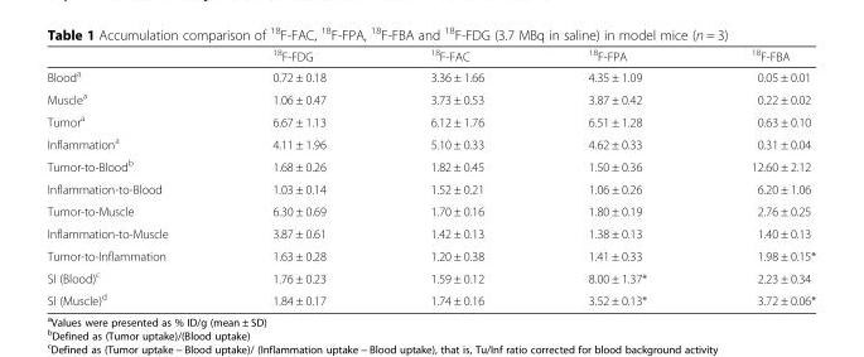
<table><thead><tr><td></td><td><sup>18</sup>F-FDG</td><td><sup>18</sup>F-FAC</td><td><sup>18</sup>F-FPA</td><td><sup>18</sup>F-FBA</td></tr></thead><tbody><tr><td>Blood<sup>a</sup></td><td>0.72 ± 0.18</td><td>3.36 ± 1.66</td><td>4.35 ± 1.09</td><td>0.05 ± 0.01</td></tr><tr><td>Muscle<sup>a</sup></td><td>1.06 ± 0.47</td><td>3.73 ± 0.53</td><td>3.87 ± 0.42</td><td>0.22 ± 0.02</td></tr><tr><td>Tumor<sup>a</sup></td><td>6.67 ± 1.13</td><td>6.12 ± 1.76</td><td>6.51 ± 1.28</td><td>0.63 ± 0.10</td></tr><tr><td>Inflammation<sup>a</sup></td><td>4.11 ± 1.96</td><td>5.10 ± 0.33</td><td>4.62 ± 0.33</td><td>0.31 ± 0.04</td></tr><tr><td>Tumor-to-Blood<sup>b</sup></td><td>1.68 ± 0.26</td><td>1.82 ± 0.45</td><td>1.50 ± 0.36</td><td>12.60 ± 2.12</td></tr><tr><td>Inflammation-to-Blood</td><td>1.03 ± 0.14</td><td>1.52 ± 0.21</td><td>1.06 ± 0.26</td><td>6.20 ± 1.06</td></tr><tr><td>Tumor-to-Muscle</td><td>6.30 ± 0.69</td><td>1.70 ± 0.16</td><td>1.80 ± 0.19</td><td>2.76 ± 0.25</td></tr><tr><td>Inflammation-to-Muscle</td><td>3.87 ± 0.61</td><td>1.42 ± 0.13</td><td>1.38 ± 0.13</td><td>1.40 ± 0.13</td></tr><tr><td>Tumor-to-Inflammation</td><td>1.63 ± 0.28</td><td>1.20 ± 0.38</td><td>1.41 ± 0.33</td><td>1.98 ± 0.15*</td></tr><tr><td>SI (Blood)<sup>c</sup></td><td>1.76 ± 0.23</td><td>1.59 ± 0.12</td><td>8.00 ± 1.37*</td><td>2.23 ± 0.34</td></tr><tr><td>SI (Muscle)<sup>d</sup></td><td>1.84 ± 0.17</td><td>1.74 ± 0.16</td><td>3.52 ± 0.13*</td><td>3.72 ± 0.06*</td></tr></tbody></table>